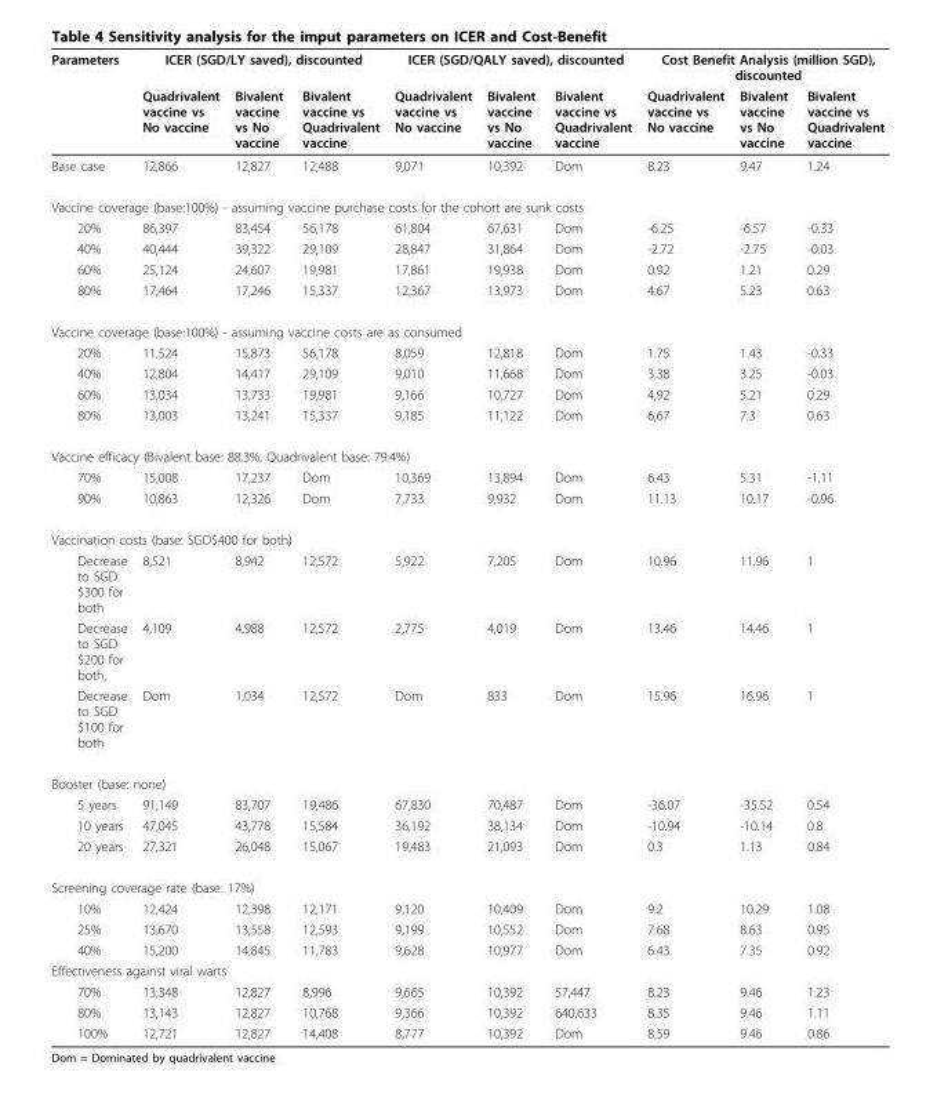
<table><thead><tr><td rowspan="2">Parameters</td><td colspan="3">ICER (SGD/LY saved), discounted</td><td colspan="3">ICER (SGD/QALY saved), discounted</td><td colspan="3">Cost Benefit Analysis (million SGD), discounted</td></tr><tr><td>Quadrivalent vaccine vs No vaccine</td><td>Bivalent vaccine vs No vaccine</td><td>Bivalent vaccine vs Quadrivalent vaccine</td><td>Quadrivalent vaccine vs No vaccine</td><td>Bivalent vaccine vs No vaccine</td><td>Bivalent vaccine vs Quadrivalent vaccine</td><td>Quadrivalent vaccine vs No vaccine</td><td>Bivalent vaccine vs No vaccine</td><td>Bivalent vaccine vs Quadrivalent vaccine</td></tr></thead><tbody><tr><td>Base case</td><td>12,866</td><td>12,827</td><td>12,488</td><td>9,071</td><td>10,392</td><td>Dom</td><td>8.23</td><td>9.47</td><td>1.24</td></tr><tr><td colspan="10">Vaccine coverage (base:100%) - assuming vaccine purchase costs for the cohort are sunk costs</td></tr><tr><td>20%</td><td>86,397</td><td>83,454</td><td>56,178</td><td>61,804</td><td>67,631</td><td>Dom</td><td>-6.25</td><td>-6.57</td><td>-0.33</td></tr><tr><td>40%</td><td>40,444</td><td>39,322</td><td>29,109</td><td>28,847</td><td>31,864</td><td>Dom</td><td>-2.72</td><td>-2.75</td><td>-0.03</td></tr><tr><td>60%</td><td>25,124</td><td>24,607</td><td>19,981</td><td>17,861</td><td>19,938</td><td>Dom</td><td>0.92</td><td>1.21</td><td>0.29</td></tr><tr><td>80%</td><td>17,464</td><td>17,246</td><td>15,337</td><td>12,367</td><td>13,973</td><td>Dom</td><td>4.67</td><td>5.23</td><td>0.63</td></tr><tr><td colspan="10">Vaccine coverage (base:100%) - assuming vaccine costs are as consumed</td></tr><tr><td>20%</td><td>11,524</td><td>15,873</td><td>56,178</td><td>8,059</td><td>12,818</td><td>Dom</td><td>1.75</td><td>1.43</td><td>-0.33</td></tr><tr><td>40%</td><td>12,804</td><td>14,417</td><td>29,109</td><td>9,010</td><td>11,668</td><td>Dom</td><td>3.38</td><td>3.25</td><td>-0.03</td></tr><tr><td>60%</td><td>13,034</td><td>13,733</td><td>19,981</td><td>9,166</td><td>10,727</td><td>Dom</td><td>4,92</td><td>5.21</td><td>0.29</td></tr><tr><td>80%</td><td>13,003</td><td>13,241</td><td>15,337</td><td>9,185</td><td>11,122</td><td>Dom</td><td>6,67</td><td>7.3</td><td>0.63</td></tr><tr><td colspan="10">Vaccine efficacy (Bivalent base: 88.3%, Quadrivalent base: 79.4%)</td></tr><tr><td>70%</td><td>15,008</td><td>17,237</td><td>Dom</td><td>10,369</td><td>13,894</td><td>Dom</td><td>6.43</td><td>5.31</td><td>-1.11</td></tr><tr><td>90%</td><td>10,863</td><td>12,326</td><td>Dom</td><td>7,733</td><td>9,932</td><td>Dom</td><td>11.13</td><td>10.17</td><td>-0.96</td></tr><tr><td colspan="10">Vaccination costs (base: SGD$400 for both)</td></tr><tr><td>Decrease to SGD $300 for both</td><td>8,521</td><td>8,942</td><td>12,572</td><td>5,922</td><td>7,205</td><td>Dom</td><td>10.96</td><td>11.96</td><td>1</td></tr><tr><td>Decrease to SGD $200 for both,</td><td>4,109</td><td>4,988</td><td>12,572</td><td>2,775</td><td>4,019</td><td>Dom</td><td>13.46</td><td>14.46</td><td>1</td></tr><tr><td>Decrease to SGD $100 for both</td><td>Dom</td><td>1,034</td><td>12,572</td><td>Dom</td><td>833</td><td>Dom</td><td>15.96</td><td>16.96</td><td>1</td></tr><tr><td colspan="10">Booster (base: none)</td></tr><tr><td>5 years</td><td>91,149</td><td>83,707</td><td>19,486</td><td>67,830</td><td>70,487</td><td>Dom</td><td>-36.07</td><td>-35.52</td><td>0.54</td></tr><tr><td>10 years</td><td>47,045</td><td>43,778</td><td>15,584</td><td>36,192</td><td>38,134</td><td>Dom</td><td>-10.94</td><td>-10.14</td><td>0.8</td></tr><tr><td>20 years</td><td>27,321</td><td>26,048</td><td>15,067</td><td>19,483</td><td>21,093</td><td>Dom</td><td>0.3</td><td>1.13</td><td>0.84</td></tr><tr><td colspan="10">Screening coverage rate (base: 17%)</td></tr><tr><td>10%</td><td>12,424</td><td>12,398</td><td>12,171</td><td>9,120</td><td>10,409</td><td>Dom</td><td>9.2</td><td>10.29</td><td>1.08</td></tr><tr><td>25%</td><td>13,670</td><td>13,558</td><td>12,593</td><td>9,199</td><td>10,552</td><td>Dom</td><td>7.68</td><td>8.63</td><td>0.95</td></tr><tr><td>40%</td><td>15,200</td><td>14,845</td><td>11,783</td><td>9,628</td><td>10,977</td><td>Dom</td><td>6.43</td><td>7.35</td><td>0.92</td></tr><tr><td colspan="10">Effectiveness against viral warts</td></tr><tr><td>70%</td><td>13,348</td><td>12,827</td><td>8,996</td><td>9,665</td><td>10,392</td><td>57,447</td><td>8.23</td><td>9.46</td><td>1.23</td></tr><tr><td>80%</td><td>13,143</td><td>12,827</td><td>10,768</td><td>9,366</td><td>10,392</td><td>640,633</td><td>8.35</td><td>9.46</td><td>1.11</td></tr><tr><td>100%</td><td>12,721</td><td>12,827</td><td>14,408</td><td>8,777</td><td>10,392</td><td>Dom</td><td>8.59</td><td>9.46</td><td>0.86</td></tr></tbody></table>